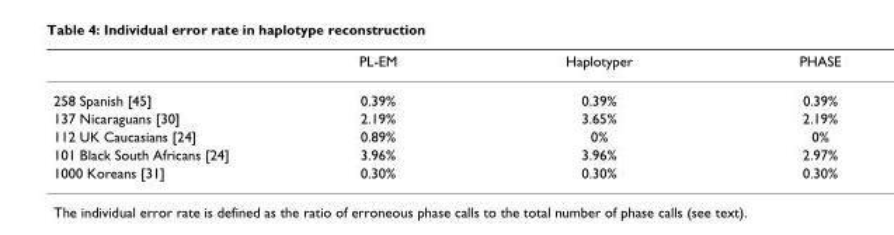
<table><thead><tr><td></td><td>PL-EM</td><td>Haplotyper</td><td>PHASE</td></tr></thead><tbody><tr><td>258 Spanish [45]</td><td>0.39%</td><td>0.39%</td><td>0.39%</td></tr><tr><td>137 Nicaraguans [30]</td><td>2.19%</td><td>3.65%</td><td>2.19%</td></tr><tr><td>112 UK Caucasians [24]</td><td>0.89%</td><td>0%</td><td>0%</td></tr><tr><td>101 Black South Africans [24]</td><td>3.96%</td><td>3.96%</td><td>2.97%</td></tr><tr><td>1000 Koreans [31]</td><td>0.30%</td><td>0.30%</td><td>0.30%</td></tr></tbody></table>